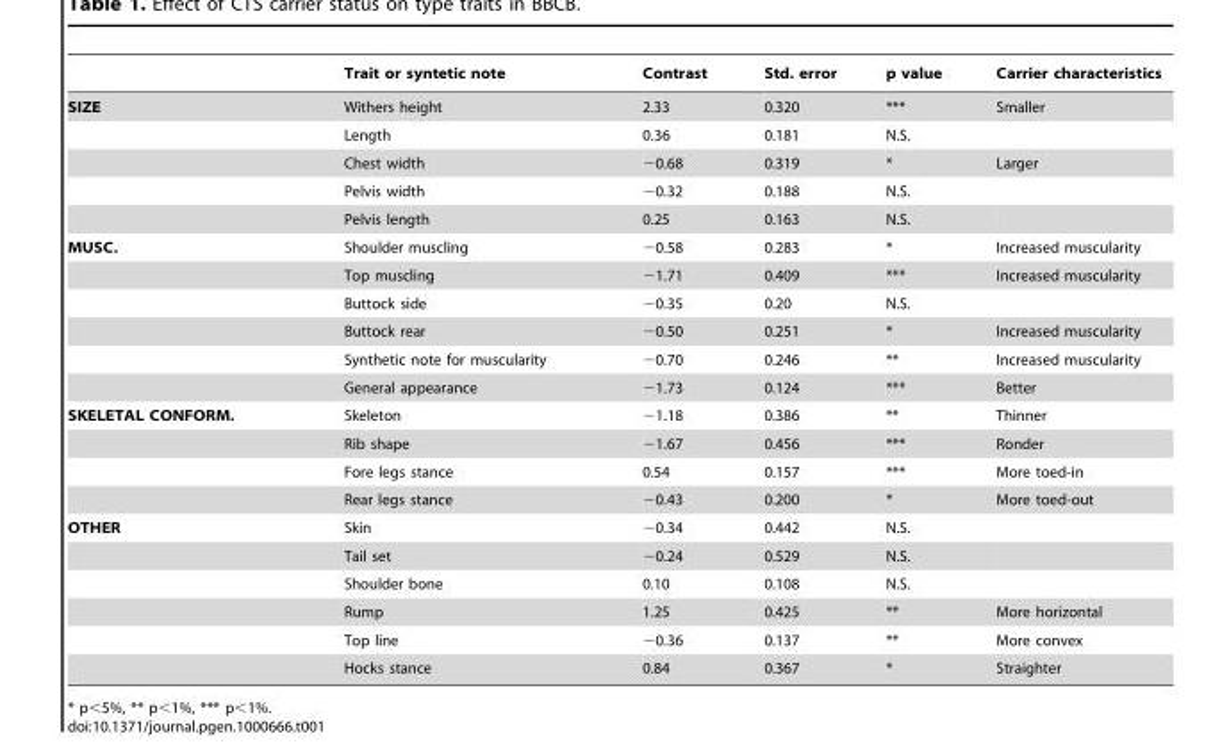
<table><thead><tr><td></td><td>Trait or syntetic note</td><td>Contrast</td><td>Std. error</td><td>p value</td><td>Carrier characteristics</td></tr></thead><tbody><tr><td rowspan="5">SIZE</td><td>Withers height</td><td>2.33</td><td>0.320</td><td>***</td><td>Smaller</td></tr><tr><td>Length</td><td>0.36</td><td>0.181</td><td>N.S.</td><td></td></tr><tr><td>Chest width</td><td>−0.68</td><td>0.319</td><td>*</td><td>Larger</td></tr><tr><td>Pelvis width</td><td>−0.32</td><td>0.188</td><td>N.S.</td><td></td></tr><tr><td>Pelvis length</td><td>0.25</td><td>0.163</td><td>N.S.</td><td></td></tr><tr><td rowspan="6">MUSC.</td><td>Shoulder muscling</td><td>−0.58</td><td>0.283</td><td>*</td><td>Increased muscularity</td></tr><tr><td>Top muscling</td><td>−1.71</td><td>0.409</td><td>***</td><td>Increased muscularity</td></tr><tr><td>Buttock side</td><td>−0.35</td><td>0.20</td><td>N.S.</td><td></td></tr><tr><td>Buttock rear</td><td>−0.50</td><td>0.251</td><td>*</td><td>Increased muscularity</td></tr><tr><td>Synthetic note for muscularity</td><td>−0.70</td><td>0.246</td><td>**</td><td>Increased muscularity</td></tr><tr><td>General appearance</td><td>−1.73</td><td>0.124</td><td>***</td><td>Better</td></tr><tr><td rowspan="4">SKELETAL CONFORM.</td><td>Skeleton</td><td>−1.18</td><td>0.386</td><td>**</td><td>Thinner</td></tr><tr><td>Rib shape</td><td>−1.67</td><td>0.456</td><td>***</td><td>Ronder</td></tr><tr><td>Fore legs stance</td><td>0.54</td><td>0.157</td><td>***</td><td>More toed-in</td></tr><tr><td>Rear legs stance</td><td>−0.43</td><td>0.200</td><td>*</td><td>More toed-out</td></tr><tr><td rowspan="6">OTHER</td><td>Skin</td><td>−0.34</td><td>0.442</td><td>N.S.</td><td></td></tr><tr><td>Tail set</td><td>−0.24</td><td>0.529</td><td>N.S.</td><td></td></tr><tr><td>Shoulder bone</td><td>0.10</td><td>0.108</td><td>N.S.</td><td></td></tr><tr><td>Rump</td><td>1.25</td><td>0.425</td><td>**</td><td>More horizontal</td></tr><tr><td>Top line</td><td>−0.36</td><td>0.137</td><td>**</td><td>More convex</td></tr><tr><td>Hocks stance</td><td>0.84</td><td>0.367</td><td>*</td><td>Straighter</td></tr></tbody></table>